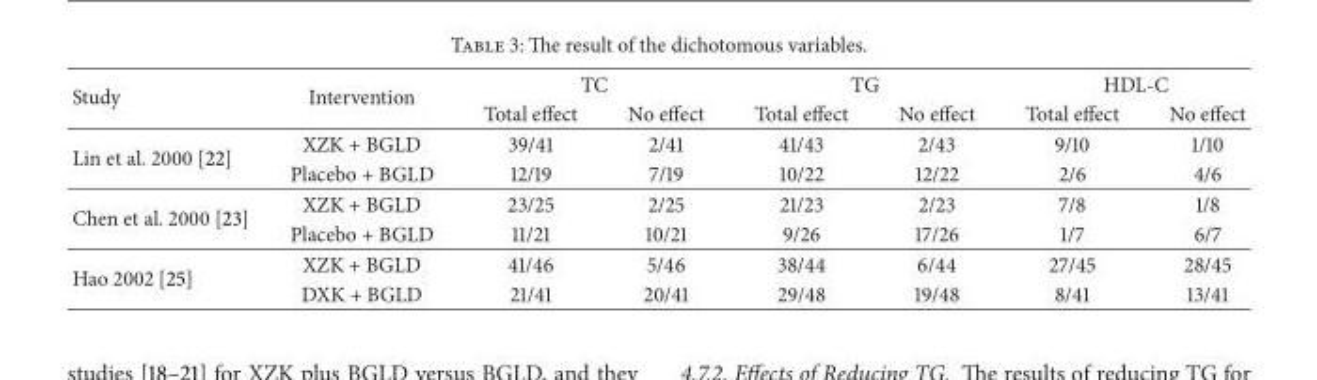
<table><thead><tr><td rowspan="2">Study</td><td rowspan="2">Intervention</td><td colspan="2">TC</td><td colspan="2">TG</td><td colspan="2">HDL-C</td></tr><tr><td>Total effect</td><td>No effect</td><td>Total effect</td><td>No effect</td><td>Total effect</td><td>No effect</td></tr></thead><tbody><tr><td rowspan="2">Lin et al. 2000 [22]</td><td>XZK + BGLD</td><td>39/41</td><td>2/41</td><td>41/43</td><td>2/43</td><td>9/10</td><td>1/10</td></tr><tr><td>Placebo + BGLD</td><td>12/19</td><td>7/19</td><td>10/22</td><td>12/22</td><td>2/6</td><td>4/6</td></tr><tr><td rowspan="2">Chen et al. 2000 [23]</td><td>XZK + BGLD</td><td>23/25</td><td>2/25</td><td>21/23</td><td>2/23</td><td>7/8</td><td>1/8</td></tr><tr><td>Placebo + BGLD</td><td>11/21</td><td>10/21</td><td>9/26</td><td>17/26</td><td>1/7</td><td>6/7</td></tr><tr><td rowspan="2">Hao 2002 [25]</td><td>XZK + BGLD</td><td>41/46</td><td>5/46</td><td>38/44</td><td>6/44</td><td>27/45</td><td>28/45</td></tr><tr><td>DXK + BGLD</td><td>21/41</td><td>20/41</td><td>29/48</td><td>19/48</td><td>8/41</td><td>13/41</td></tr></tbody></table>